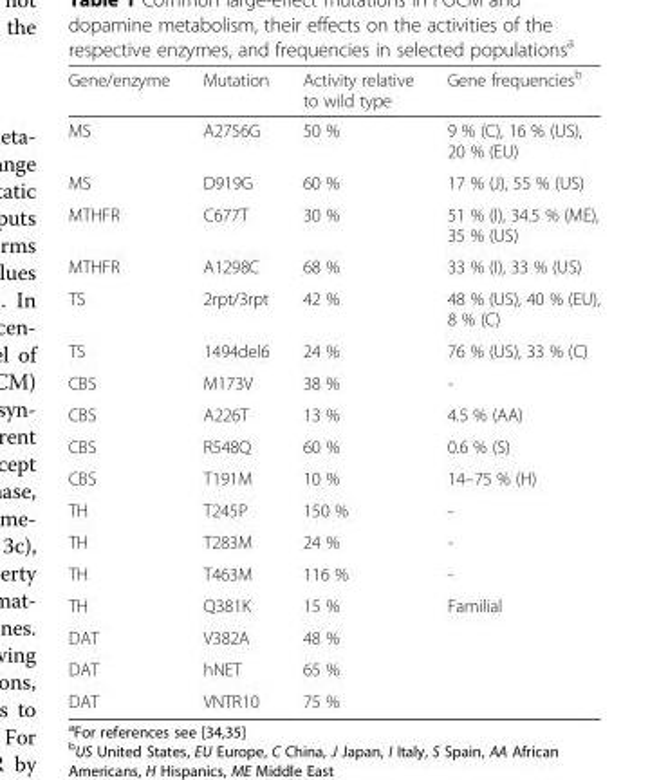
<table><thead><tr><td>Gene/enzyme</td><td>Mutation</td><td>Activity relative to wild type</td><td>Gene frequencies<sup>b</sup></td></tr></thead><tbody><tr><td>MS</td><td>A2756G</td><td>50 %</td><td>9 % (C), 16 % (US), 20 % (EU)</td></tr><tr><td>MS</td><td>D919G</td><td>60 %</td><td>17 % (J), 55 % (US)</td></tr><tr><td>MTHFR</td><td>C677T</td><td>30 %</td><td>51 % (I), 34.5 % (ME), 35 % (US)</td></tr><tr><td>MTHFR</td><td>A1298C</td><td>68 %</td><td>33 % (I), 33 % (US)</td></tr><tr><td>TS</td><td>2rpt/3rpt</td><td>42 %</td><td>48 % (US), 40 % (EU), 8 % (C)</td></tr><tr><td>TS</td><td>1494del6</td><td>24 %</td><td>76 % (US), 33 % (C)</td></tr><tr><td>CBS</td><td>M173V</td><td>38 %</td><td>-</td></tr><tr><td>CBS</td><td>A226T</td><td>13 %</td><td>4.5 % (AA)</td></tr><tr><td>CBS</td><td>R548Q</td><td>60 %</td><td>0.6 % (S)</td></tr><tr><td>CBS</td><td>T191M</td><td>10 %</td><td>14–75 % (H)</td></tr><tr><td>TH</td><td>T245P</td><td>150 %</td><td>-</td></tr><tr><td>TH</td><td>T283M</td><td>24 %</td><td>-</td></tr><tr><td>TH</td><td>T463M</td><td>116 %</td><td>-</td></tr><tr><td>TH</td><td>Q381K</td><td>15 %</td><td>Familial</td></tr><tr><td>DAT</td><td>V382A</td><td>48 %</td><td></td></tr><tr><td>DAT</td><td>hNET</td><td>65 %</td><td></td></tr><tr><td>DAT</td><td>VNTR10</td><td>75 %</td><td></td></tr></tbody></table>